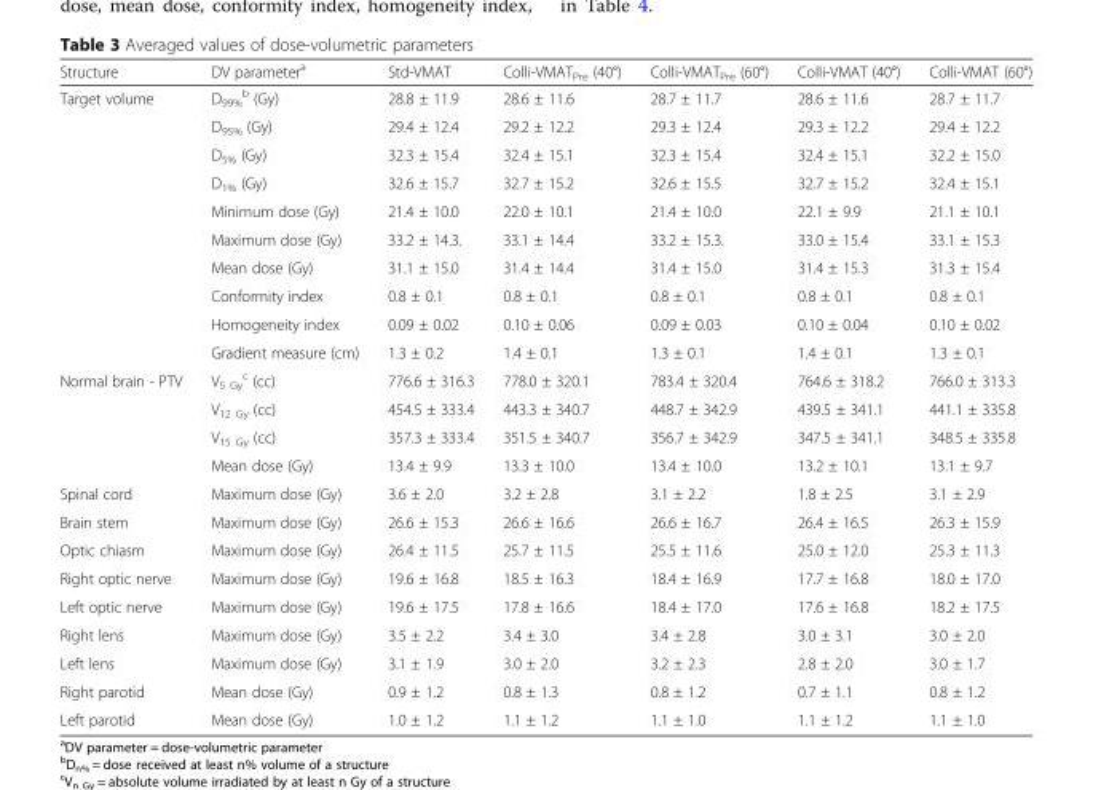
<table><thead><tr><td>Structure</td><td>DV parameter<sup>a</sup></td><td>Std-VMAT</td><td>Colli-VMAT<sub>Pre</sub> (40°)</td><td>Colli-VMAT<sub>Pre</sub> (60°)</td><td>Colli-VMAT (40°)</td><td>Colli-VMAT (60°)</td></tr></thead><tbody><tr><td rowspan="10">Target volume</td><td>D<sub>99%</sub> <sup>b</sup> (Gy)</td><td>28.8 ± 11.9</td><td>28.6 ± 11.6</td><td>28.7 ± 11.7</td><td>28.6 ± 11.6</td><td>28.7 ± 11.7</td></tr><tr><td>D<sub>95%</sub> (Gy)</td><td>29.4 ± 12.4</td><td>29.2 ± 12.2</td><td>29.3 ± 12.4</td><td>29.3 ± 12.2</td><td>29.4 ± 12.2</td></tr><tr><td>D<sub>5%</sub> (Gy)</td><td>32.3 ± 15.4</td><td>32.4 ± 15.1</td><td>32.3 ± 15.4</td><td>32.4 ± 15.1</td><td>32.2 ± 15.0</td></tr><tr><td>D<sub>1%</sub> (Gy)</td><td>32.6 ± 15.7</td><td>32.7 ± 15.2</td><td>32.6 ± 15.5</td><td>32.7 ± 15.2</td><td>32.4 ± 15.1</td></tr><tr><td>Minimum dose (Gy)</td><td>21.4 ± 10.0</td><td>22.0 ± 10.1</td><td>21.4 ± 10.0</td><td>22.1 ± 9.9</td><td>21.1 ± 10.1</td></tr><tr><td>Maximum dose (Gy)</td><td>33.2 ± 14.3.</td><td>33.1 ± 14.4</td><td>33.2 ± 15.3.</td><td>33.0 ± 15.4</td><td>33.1 ± 15.3</td></tr><tr><td>Mean dose (Gy)</td><td>31.1 ± 15.0</td><td>31.4 ± 14.4</td><td>31.4 ± 15.0</td><td>31.4 ± 15.3</td><td>31.3 ± 15.4</td></tr><tr><td>Conformity index</td><td>0.8 ± 0.1</td><td>0.8 ± 0.1</td><td>0.8 ± 0.1</td><td>0.8 ± 0.1</td><td>0.8 ± 0.1</td></tr><tr><td>Homogeneity index</td><td>0.09 ± 0.02</td><td>0.10 ± 0.06</td><td>0.09 ± 0.03</td><td>0.10 ± 0.04</td><td>0.10 ± 0.02</td></tr><tr><td>Gradient measure (cm)</td><td>1.3 ± 0.2</td><td>1.4 ± 0.1</td><td>1.3 ± 0.1</td><td>1.4 ± 0.1</td><td>1.3 ± 0.1</td></tr><tr><td rowspan="4">Normal brain - PTV</td><td>V<sub>5 Gy</sub> <sup>c</sup> (cc)</td><td>776.6 ± 316.3</td><td>778.0 ± 320.1</td><td>783.4 ± 320.4</td><td>764.6 ± 318.2</td><td>766.0 ± 313.3</td></tr><tr><td>V<sub>12 Gy</sub> (cc)</td><td>454.5 ± 333.4</td><td>443.3 ± 340.7</td><td>448.7 ± 342.9</td><td>439.5 ± 341.1</td><td>441.1 ± 335.8</td></tr><tr><td>V<sub>15 Gy</sub> (cc)</td><td>357.3 ± 333.4</td><td>351.5 ± 340.7</td><td>356.7 ± 342.9</td><td>347.5 ± 341.1</td><td>348.5 ± 335.8</td></tr><tr><td>Mean dose (Gy)</td><td>13.4 ± 9.9</td><td>13.3 ± 10.0</td><td>13.4 ± 10.0</td><td>13.2 ± 10.1</td><td>13.1 ± 9.7</td></tr><tr><td>Spinal cord</td><td>Maximum dose (Gy)</td><td>3.6 ± 2.0</td><td>3.2 ± 2.8</td><td>3.1 ± 2.2</td><td>1.8 ± 2.5</td><td>3.1 ± 2.9</td></tr><tr><td>Brain stem</td><td>Maximum dose (Gy)</td><td>26.6 ± 15.3</td><td>26.6 ± 16.6</td><td>26.6 ± 16.7</td><td>26.4 ± 16.5</td><td>26.3 ± 15.9</td></tr><tr><td>Optic chiasm</td><td>Maximum dose (Gy)</td><td>26.4 ± 11.5</td><td>25.7 ± 11.5</td><td>25.5 ± 11.6</td><td>25.0 ± 12.0</td><td>25.3 ± 11.3</td></tr><tr><td>Right optic nerve</td><td>Maximum dose (Gy)</td><td>19.6 ± 16.8</td><td>18.5 ± 16.3</td><td>18.4 ± 16.9</td><td>17.7 ± 16.8</td><td>18.0 ± 17.0</td></tr><tr><td>Left optic nerve</td><td>Maximum dose (Gy)</td><td>19.6 ± 17.5</td><td>17.8 ± 16.6</td><td>18.4 ± 17.0</td><td>17.6 ± 16.8</td><td>18.2 ± 17.5</td></tr><tr><td>Right lens</td><td>Maximum dose (Gy)</td><td>3.5 ± 2.2</td><td>3.4 ± 3.0</td><td>3.4 ± 2.8</td><td>3.0 ± 3.1</td><td>3.0 ± 2.0</td></tr><tr><td>Left lens</td><td>Maximum dose (Gy)</td><td>3.1 ± 1.9</td><td>3.0 ± 2.0</td><td>3.2 ± 2.3</td><td>2.8 ± 2.0</td><td>3.0 ± 1.7</td></tr><tr><td>Right parotid</td><td>Mean dose (Gy)</td><td>0.9 ± 1.2</td><td>0.8 ± 1.3</td><td>0.8 ± 1.2</td><td>0.7 ± 1.1</td><td>0.8 ± 1.2</td></tr><tr><td>Left parotid</td><td>Mean dose (Gy)</td><td>1.0 ± 1.2</td><td>1.1 ± 1.2</td><td>1.1 ± 1.0</td><td>1.1 ± 1.2</td><td>1.1 ± 1.0</td></tr></tbody></table>